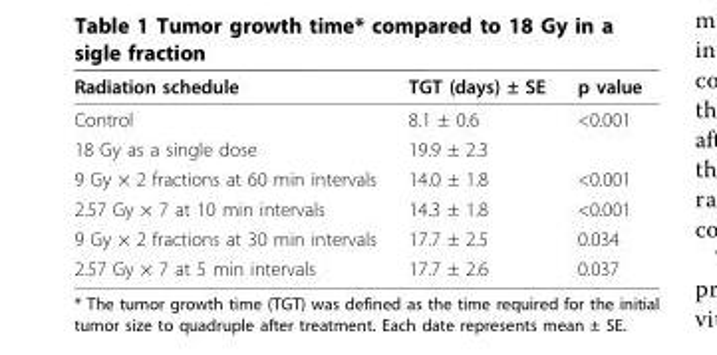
<table><thead><tr><td>Radiation schedule</td><td>TGT (days) ± SE</td><td>p value</td></tr></thead><tbody><tr><td>Control</td><td>8.1 ± 0.6</td><td>&lt;0.001</td></tr><tr><td>18 Gy as a single dose</td><td>19.9 ± 2.3</td><td></td></tr><tr><td>9 Gy × 2 fractions at 60 min intervals</td><td>14.0 ± 1.8</td><td>&lt;0.001</td></tr><tr><td>2.57 Gy × 7 at 10 min intervals</td><td>14.3 ± 1.8</td><td>&lt;0.001</td></tr><tr><td>9 Gy × 2 fractions at 30 min intervals</td><td>17.7 ± 2.5</td><td>0.034</td></tr><tr><td>2.57 Gy × 7 at 5 min intervals</td><td>17.7 ± 2.6</td><td>0.037</td></tr></tbody></table>